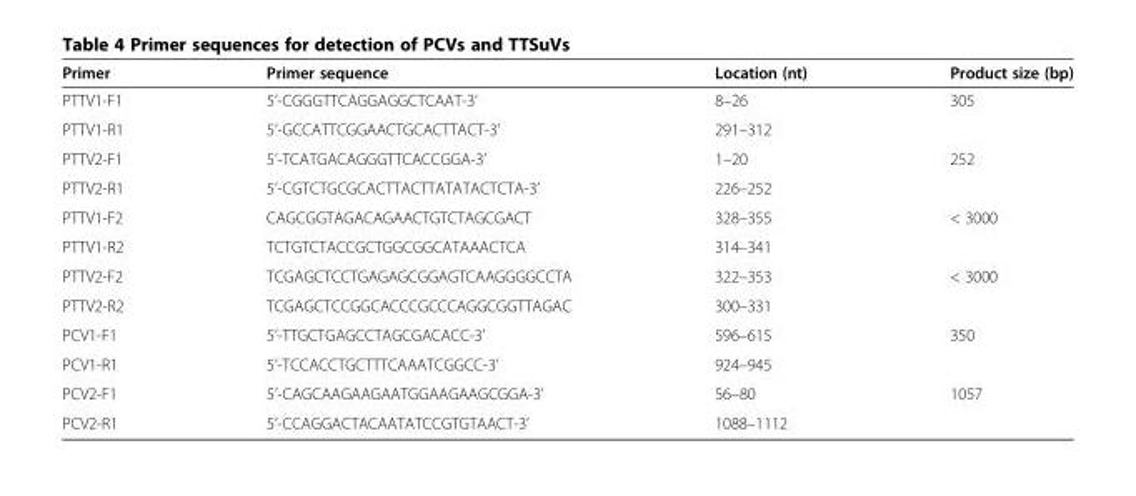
<table><thead><tr><td>Primer</td><td>Primer sequence</td><td>Location (nt)</td><td>Product size (bp)</td></tr></thead><tbody><tr><td>PTTV1-F1</td><td>5’-CGGGTTCAGGAGGCTCAAT-3’</td><td>8–26</td><td rowspan="2">305</td></tr><tr><td>PTTV1-R1</td><td>5’-GCCATTCGGAACTGCACTTACT-3’</td><td>291–312</td></tr><tr><td>PTTV2-F1</td><td>5’-TCATGACAGGGTTCACCGGA-3’</td><td>1–20</td><td rowspan="2">252</td></tr><tr><td>PTTV2-R1</td><td>5’-CGTCTGCGCACTTACTTATATACTCTA-3’</td><td>226–252</td></tr><tr><td>PTTV1-F2</td><td>CAGCGGTAGACAGAACTGTCTAGCGACT</td><td>328–355</td><td rowspan="2">&lt; 3000</td></tr><tr><td>PTTV1-R2</td><td>TCTGTCTACCGCTGGCGGCATAAACTCA</td><td>314–341</td></tr><tr><td>PTTV2-F2</td><td>TCGAGCTCCTGAGAGCGGAGTCAAGGGGCCTA</td><td>322–353</td><td rowspan="2">&lt; 3000</td></tr><tr><td>PTTV2-R2</td><td>TCGAGCTCCGGCACCCGCCCAGGCGGTTAGAC</td><td>300–331</td></tr><tr><td>PCV1-F1</td><td>5’-TTGCTGAGCCTAGCGACACC-3’</td><td>596–615</td><td rowspan="2">350</td></tr><tr><td>PCV1-R1</td><td>5’-TCCACCTGCTTTCAAATCGGCC-3’</td><td>924–945</td></tr><tr><td>PCV2-F1</td><td>5’-CAGCAAGAAGAATGGAAGAAGCGGA-3’</td><td>56–80</td><td rowspan="2">1057</td></tr><tr><td>PCV2-R1</td><td>5’-CCAGGACTACAATATCCGTGTAACT-3’</td><td>1088–1112</td></tr></tbody></table>